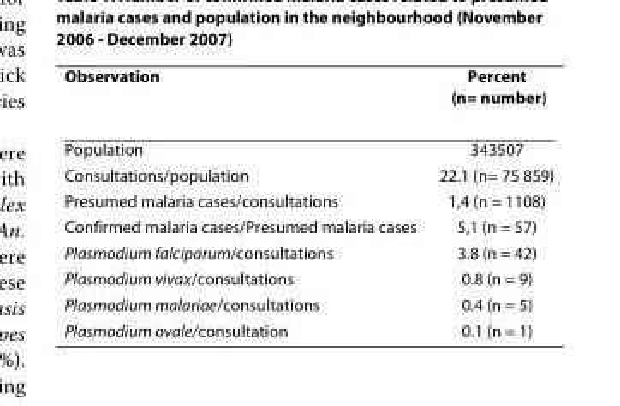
<table><thead><tr><td>Observation</td><td>Percent (n= number)</td></tr></thead><tbody><tr><td>Population</td><td>343507</td></tr><tr><td>Consultations/population</td><td>22.1 (n= 75 859)</td></tr><tr><td>Presumed malaria cases/consultations</td><td>1,4 (n = 1108)</td></tr><tr><td>Confirmed malaria cases/Presumed malaria cases</td><td>5,1 (n = 57)</td></tr><tr><td>Plasmodium falciparum/consultations</td><td>3.8 (n = 42)</td></tr><tr><td>Plasmodium vivax/consultations</td><td>0.8 (n = 9)</td></tr><tr><td>Plasmodium malariae/consultations</td><td>0.4 (n = 5)</td></tr><tr><td>Plasmodium ovale/consultation</td><td>0.1 (n = 1)</td></tr></tbody></table>